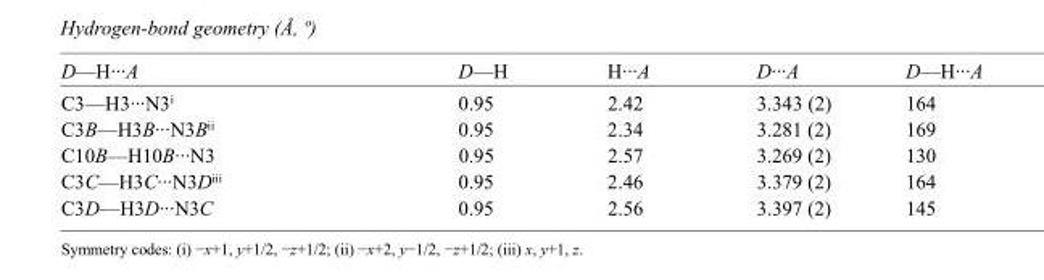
<table><tbody><tr><td>D—H···A</td><td>D—H</td><td>H···A</td><td>D···A</td><td>D—H···A</td></tr><tr><td>C3—H3···N3<sup>i</sup></td><td>0.95</td><td>2.42</td><td>3.343 (2)</td><td>164</td></tr><tr><td>C3B—H3B···N3B<sup>ii</sup></td><td>0.95</td><td>2.34</td><td>3.281 (2)</td><td>169</td></tr><tr><td>C10B—H10B···N3</td><td>0.95</td><td>2.57</td><td>3.269 (2)</td><td>130</td></tr><tr><td>C3C—H3C···N3D<sup>iii</sup></td><td>0.95</td><td>2.46</td><td>3.379 (2)</td><td>164</td></tr><tr><td>C3D—H3D···N3C</td><td>0.95</td><td>2.56</td><td>3.397 (2)</td><td>145</td></tr></tbody></table>